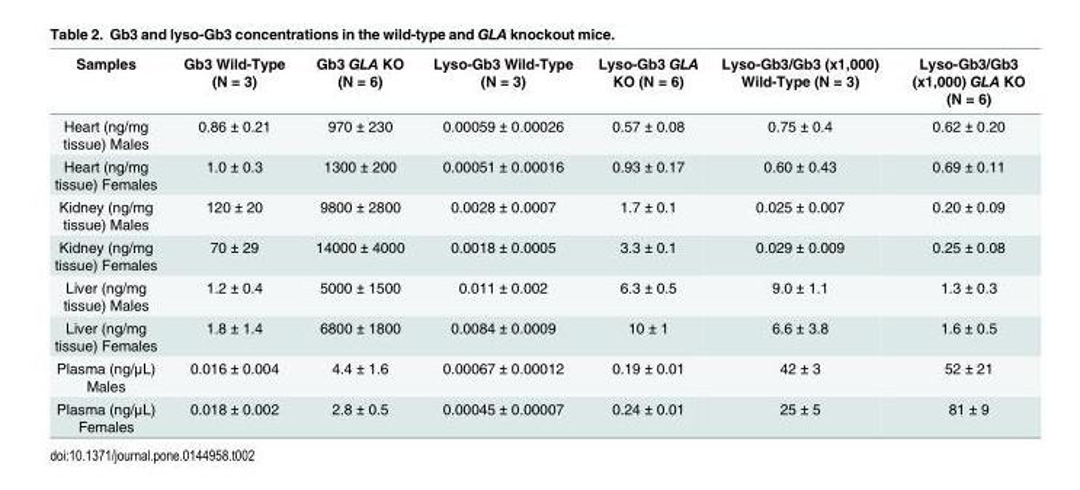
<table><thead><tr><td>Samples</td><td>Gb3 Wild-Type (N = 3)</td><td>Gb3 GLA KO (N = 6)</td><td>Lyso-Gb3 Wild-Type (N = 3)</td><td>Lyso-Gb3 GLA KO (N = 6)</td><td>Lyso-Gb3/Gb3 (x1,000) Wild-Type (N = 3)</td><td>Lyso-Gb3/Gb3 (x1,000) GLA KO (N = 6)</td></tr></thead><tbody><tr><td>Heart (ng/mg tissue) Males</td><td>0.86 ± 0.21</td><td>970 ± 230</td><td>0.00059 ± 0.00026</td><td>0.57 ± 0.08</td><td>0.75 ± 0.4</td><td>0.62 ± 0.20</td></tr><tr><td>Heart (ng/mg tissue) Females</td><td>1.0 ± 0.3</td><td>1300 ± 200</td><td>0.00051 ± 0.00016</td><td>0.93 ± 0.17</td><td>0.60 ± 0.43</td><td>0.69 ± 0.11</td></tr><tr><td>Kidney (ng/mg tissue) Males</td><td>120 ± 20</td><td>9800 ± 2800</td><td>0.0028 ± 0.0007</td><td>1.7 ± 0.1</td><td>0.025 ± 0.007</td><td>0.20 ± 0.09</td></tr><tr><td>Kidney (ng/mg tissue) Females</td><td>70 ± 29</td><td>14000 ± 4000</td><td>0.0018 ± 0.0005</td><td>3.3 ± 0.1</td><td>0.029 ± 0.009</td><td>0.25 ± 0.08</td></tr><tr><td>Liver (ng/mg tissue) Males</td><td>1.2 ± 0.4</td><td>5000 ± 1500</td><td>0.011 ± 0.002</td><td>6.3 ± 0.5</td><td>9.0 ± 1.1</td><td>1.3 ± 0.3</td></tr><tr><td>Liver (ng/mg tissue) Females</td><td>1.8 ± 1.4</td><td>6800 ± 1800</td><td>0.0084 ± 0.0009</td><td>10 ± 1</td><td>6.6 ± 3.8</td><td>1.6 ± 0.5</td></tr><tr><td>Plasma (ng/μL) Males</td><td>0.016 ± 0.004</td><td>4.4 ± 1.6</td><td>0.00067 ± 0.00012</td><td>0.19 ± 0.01</td><td>42 ± 3</td><td>52 ± 21</td></tr><tr><td>Plasma (ng/μL) Females</td><td>0.018 ± 0.002</td><td>2.8 ± 0.5</td><td>0.00045 ± 0.00007</td><td>0.24 ± 0.01</td><td>25 ± 5</td><td>81 ± 9</td></tr></tbody></table>